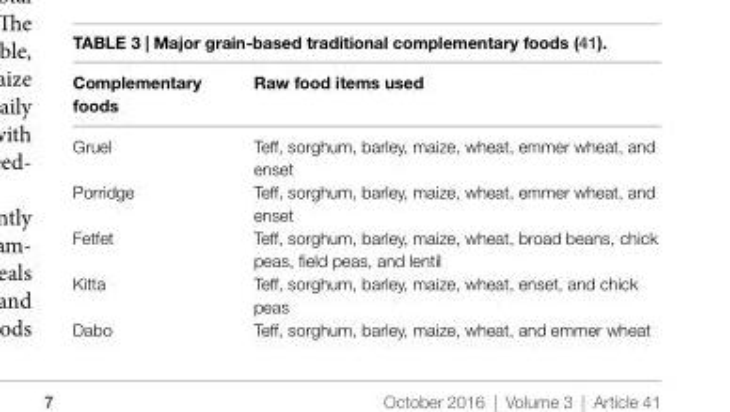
<table><thead><tr><td>Complementary foods</td><td>Raw food items used</td></tr></thead><tbody><tr><td>Gruel</td><td>Teff, sorghum, barley, maize, wheat, emmer wheat, and enset</td></tr><tr><td>Porridge</td><td>Teff, sorghum, barley, maize, wheat, emmer wheat, and enset</td></tr><tr><td>Fetfet</td><td>Teff, sorghum, barley, maize, wheat, broad beans, chick peas, field peas, and lentil</td></tr><tr><td>Kitta</td><td>Teff, sorghum, barley, maize, wheat, enset, and chick peas</td></tr><tr><td>Dabo</td><td>Teff, sorghum, barley, maize, wheat, and emmer wheat</td></tr></tbody></table>